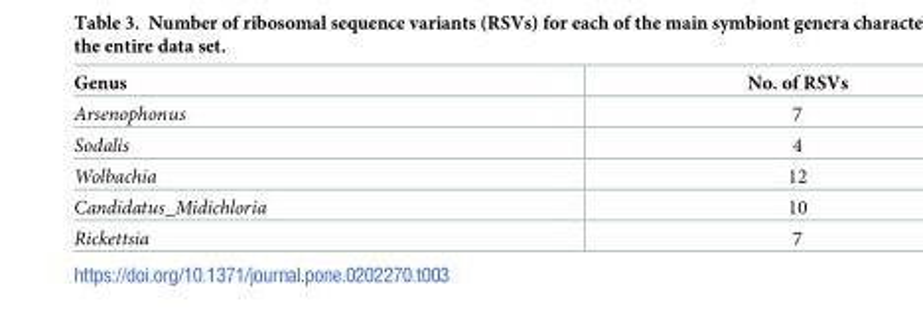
<table><thead><tr><td>Genus</td><td>No. of RSVs</td></tr></thead><tbody><tr><td>Arsenophonus</td><td>7</td></tr><tr><td>Sodalis</td><td>4</td></tr><tr><td>Wolbachia</td><td>12</td></tr><tr><td>Candidatus_Midichloria</td><td>10</td></tr><tr><td>Rickettsia</td><td>7</td></tr></tbody></table>